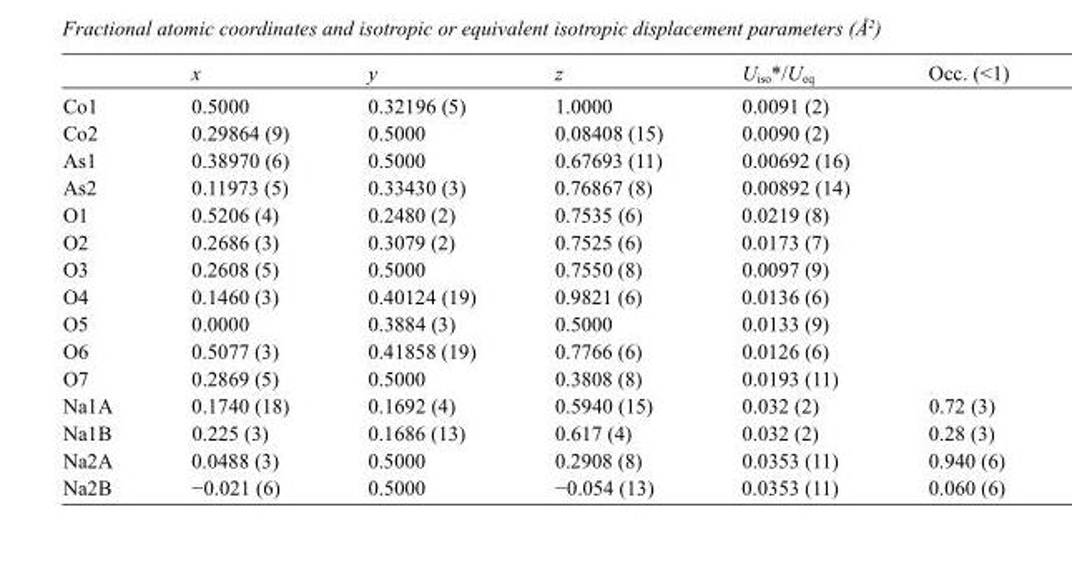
<table><thead><tr><td></td><td>x</td><td>y</td><td>z</td><td>U<sub>iso</sub>*/U<sub>eq</sub></td><td>Occ. (&lt;1)</td></tr></thead><tbody><tr><td>Co1</td><td>0.5000</td><td>0.32196 (5)</td><td>1.0000</td><td>0.0091 (2)</td><td></td></tr><tr><td>Co2</td><td>0.29864 (9)</td><td>0.5000</td><td>0.08408 (15)</td><td>0.0090 (2)</td><td></td></tr><tr><td>As1</td><td>0.38970 (6)</td><td>0.5000</td><td>0.67693 (11)</td><td>0.00692 (16)</td><td></td></tr><tr><td>As2</td><td>0.11973 (5)</td><td>0.33430 (3)</td><td>0.76867 (8)</td><td>0.00892 (14)</td><td></td></tr><tr><td>O1</td><td>0.5206 (4)</td><td>0.2480 (2)</td><td>0.7535 (6)</td><td>0.0219 (8)</td><td></td></tr><tr><td>O2</td><td>0.2686 (3)</td><td>0.3079 (2)</td><td>0.7525 (6)</td><td>0.0173 (7)</td><td></td></tr><tr><td>O3</td><td>0.2608 (5)</td><td>0.5000</td><td>0.7550 (8)</td><td>0.0097 (9)</td><td></td></tr><tr><td>O4</td><td>0.1460 (3)</td><td>0.40124 (19)</td><td>0.9821 (6)</td><td>0.0136 (6)</td><td></td></tr><tr><td>O5</td><td>0.0000</td><td>0.3884 (3)</td><td>0.5000</td><td>0.0133 (9)</td><td></td></tr><tr><td>O6</td><td>0.5077 (3)</td><td>0.41858 (19)</td><td>0.7766 (6)</td><td>0.0126 (6)</td><td></td></tr><tr><td>O7</td><td>0.2869 (5)</td><td>0.5000</td><td>0.3808 (8)</td><td>0.0193 (11)</td><td></td></tr><tr><td>Na1A</td><td>0.1740 (18)</td><td>0.1692 (4)</td><td>0.5940 (15)</td><td>0.032 (2)</td><td>0.72 (3)</td></tr><tr><td>Na1B</td><td>0.225 (3)</td><td>0.1686 (13)</td><td>0.617 (4)</td><td>0.032 (2)</td><td>0.28 (3)</td></tr><tr><td>Na2A</td><td>0.0488 (3)</td><td>0.5000</td><td>0.2908 (8)</td><td>0.0353 (11)</td><td>0.940 (6)</td></tr><tr><td>Na2B</td><td>−0.021 (6)</td><td>0.5000</td><td>−0.054 (13)</td><td>0.0353 (11)</td><td>0.060 (6)</td></tr></tbody></table>